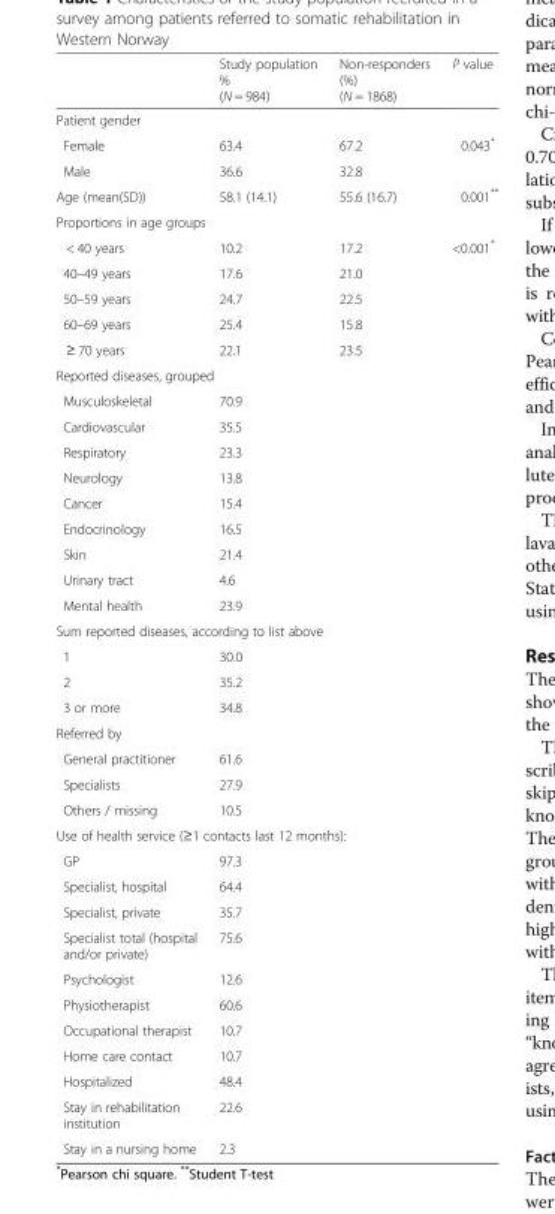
<table><thead><tr><td></td><td>Study population % (N = 984)</td><td>Non-responders (%) (N = 1868)</td><td>P value</td></tr></thead><tbody><tr><td colspan="4">Patient gender</td></tr><tr><td>Female</td><td>63.4</td><td>67.2</td><td>0.043*</td></tr><tr><td>Male</td><td>36.6</td><td>32.8</td><td></td></tr><tr><td>Age (mean(SD))</td><td>58.1 (14.1)</td><td>55.6 (16.7)</td><td>0.001**</td></tr><tr><td colspan="4">Proportions in age groups</td></tr><tr><td>&lt; 40 years</td><td>10.2</td><td>17.2</td><td>&lt;0.001*</td></tr><tr><td>40–49 years</td><td>17.6</td><td>21.0</td><td></td></tr><tr><td>50–59 years</td><td>24.7</td><td>22.5</td><td></td></tr><tr><td>60–69 years</td><td>25.4</td><td>15.8</td><td></td></tr><tr><td>≥ 70 years</td><td>22.1</td><td>23.5</td><td></td></tr><tr><td colspan="4">Reported diseases, grouped</td></tr><tr><td>Musculoskeletal</td><td>70.9</td><td></td><td></td></tr><tr><td>Cardiovascular</td><td>35.5</td><td></td><td></td></tr><tr><td>Respiratory</td><td>23.3</td><td></td><td></td></tr><tr><td>Neurology</td><td>13.8</td><td></td><td></td></tr><tr><td>Cancer</td><td>15.4</td><td></td><td></td></tr><tr><td>Endocrinology</td><td>16.5</td><td></td><td></td></tr><tr><td>Skin</td><td>21.4</td><td></td><td></td></tr><tr><td>Urinary tract</td><td>4.6</td><td></td><td></td></tr><tr><td>Mental health</td><td>23.9</td><td></td><td></td></tr><tr><td colspan="4">Sum reported diseases, according to list above</td></tr><tr><td>1</td><td>30.0</td><td></td><td></td></tr><tr><td>2</td><td>35.2</td><td></td><td></td></tr><tr><td>3 or more</td><td>34.8</td><td></td><td></td></tr><tr><td colspan="4">Referred by</td></tr><tr><td>General practitioner</td><td>61.6</td><td></td><td></td></tr><tr><td>Specialists</td><td>27.9</td><td></td><td></td></tr><tr><td>Others / missing</td><td>10.5</td><td></td><td></td></tr><tr><td colspan="4">Use of health service (≥1 contacts last 12 months):</td></tr><tr><td>GP</td><td>97.3</td><td></td><td></td></tr><tr><td>Specialist, hospital</td><td>64.4</td><td></td><td></td></tr><tr><td>Specialist, private</td><td>35.7</td><td></td><td></td></tr><tr><td>Specialist total (hospital and/or private)</td><td>75.6</td><td></td><td></td></tr><tr><td>Psychologist</td><td>12.6</td><td></td><td></td></tr><tr><td>Physiotherapist</td><td>60.6</td><td></td><td></td></tr><tr><td>Occupational therapist</td><td>10.7</td><td></td><td></td></tr><tr><td>Home care contact</td><td>10.7</td><td></td><td></td></tr><tr><td>Hospitalized</td><td>48.4</td><td></td><td></td></tr><tr><td>Stay in rehabilitation institution</td><td>22.6</td><td></td><td></td></tr><tr><td>Stay in a nursing home</td><td>2.3</td><td></td><td></td></tr></tbody></table>